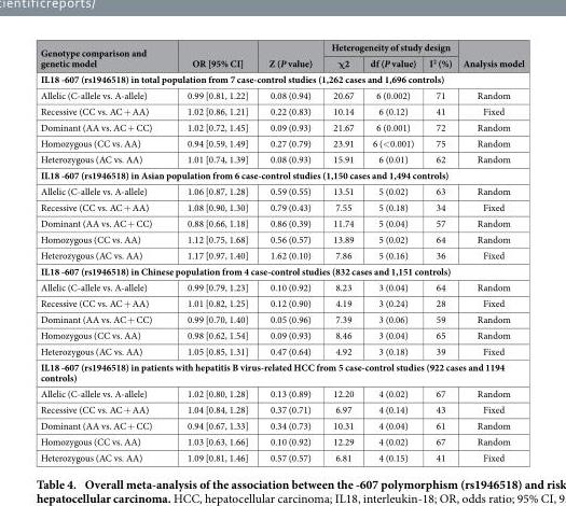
<table><thead><tr><td rowspan="2">Genotype comparison and genetic model</td><td rowspan="2">OR [95% CI]</td><td rowspan="2">Z (P value)</td><td colspan="3">Heterogeneity of study design</td><td rowspan="2">Analysis model</td></tr><tr><td>χ2</td><td>df (P value)</td><td>I<sup>2</sup> (%)</td></tr></thead><tbody><tr><td colspan="7">IL18 -607 (rs1946518) in total population from 7 case-control studies (1,262 cases and 1,696 controls)</td></tr><tr><td>Allelic (C-allele vs. A-allele)</td><td>0.99 [0.81, 1.22]</td><td>0.08 (0.94)</td><td>20.67</td><td>6 (0.002)</td><td>71</td><td>Random</td></tr><tr><td>Recessive (CC vs. AC + AA)</td><td>1.02 [0.86, 1.21]</td><td>0.22 (0.83)</td><td>10.14</td><td>6 (0.12)</td><td>41</td><td>Fixed</td></tr><tr><td>Dominant (AA vs. AC + CC)</td><td>1.02 [0.72, 1.45]</td><td>0.09 (0.93)</td><td>21.67</td><td>6 (0.001)</td><td>72</td><td>Random</td></tr><tr><td>Homozygous (CC vs. AA)</td><td>0.94 [0.59, 1.49]</td><td>0.27 (0.79)</td><td>23.91</td><td>6 (&lt; 0.001)</td><td>75</td><td>Random</td></tr><tr><td>Heterozygous (AC vs. AA)</td><td>1.01 [0.74, 1.39]</td><td>0.08 (0.93)</td><td>15.91</td><td>6 (0.01)</td><td>62</td><td>Random</td></tr><tr><td colspan="7">IL18 -607 (rs1946518) in Asian population from 6 case-control studies (1,150 cases and 1,494 controls)</td></tr><tr><td>Allelic (C-allele vs. A-allele)</td><td>1.06 [0.87, 1.28]</td><td>0.59 (0.55)</td><td>13.51</td><td>5 (0.02)</td><td>63</td><td>Random</td></tr><tr><td>Recessive (CC vs. AC + AA)</td><td>1.08 [0.90, 1.30]</td><td>0.79 (0.43)</td><td>7.55</td><td>5 (0.18)</td><td>34</td><td>Fixed</td></tr><tr><td>Dominant (AA vs. AC + CC)</td><td>0.88 [0.66, 1.18]</td><td>0.86 (0.39)</td><td>11.74</td><td>5 (0.04)</td><td>57</td><td>Random</td></tr><tr><td>Homozygous (CC vs. AA)</td><td>1.12 [0.75, 1.68]</td><td>0.56 (0.57)</td><td>13.89</td><td>5 (0.02)</td><td>64</td><td>Random</td></tr><tr><td>Heterozygous (AC vs. AA)</td><td>1.17 [0.97, 1.40]</td><td>1.62 (0.10)</td><td>7.86</td><td>5 (0.16)</td><td>36</td><td>Fixed</td></tr><tr><td colspan="7">IL18 -607 (rs1946518) in Chinese population from 4 case-control studies (832 cases and 1,151 controls)</td></tr><tr><td>Allelic (C-allele vs. A-allele)</td><td>0.99 [0.79, 1.23]</td><td>0.10 (0.92)</td><td>8.23</td><td>3 (0.04)</td><td>64</td><td>Random</td></tr><tr><td>Recessive (CC vs. AC + AA)</td><td>1.01 [0.82, 1.25]</td><td>0.12 (0.90)</td><td>4.19</td><td>3 (0.24)</td><td>28</td><td>Fixed</td></tr><tr><td>Dominant (AA vs. AC + CC)</td><td>0.99 [0.70, 1.40]</td><td>0.05 (0.96)</td><td>7.39</td><td>3 (0.06)</td><td>59</td><td>Random</td></tr><tr><td>Homozygous (CC vs. AA)</td><td>0.98 [0.62, 1.54]</td><td>0.09 (0.93)</td><td>8.46</td><td>3 (0.04)</td><td>65</td><td>Random</td></tr><tr><td>Heterozygous (AC vs. AA)</td><td>1.05 [0.85, 1.31]</td><td>0.47 (0.64)</td><td>4.92</td><td>3 (0.18)</td><td>39</td><td>Fixed</td></tr><tr><td colspan="7">IL18 -607 (rs1946518) in patients with hepatitis B virus-related HCC from 5 case-control studies (922 cases and 1194 controls)</td></tr><tr><td>Allelic (C-allele vs. A-allele)</td><td>1.02 [0.80, 1.28]</td><td>0.13 (0.89)</td><td>12.20</td><td>4 (0.02)</td><td>67</td><td>Random</td></tr><tr><td>Recessive (CC vs. AC + AA)</td><td>1.04 [0.84, 1.28]</td><td>0.37 (0.71)</td><td>6.97</td><td>4 (0.14)</td><td>43</td><td>Fixed</td></tr><tr><td>Dominant (AA vs. AC + CC)</td><td>0.94 [0.67, 1.33]</td><td>0.34 (0.73)</td><td>10.31</td><td>4 (0.04)</td><td>61</td><td>Random</td></tr><tr><td>Homozygous (CC vs. AA)</td><td>1.03 [0.63, 1.66]</td><td>0.10 (0.92)</td><td>12.29</td><td>4 (0.02)</td><td>67</td><td>Random</td></tr><tr><td>Heterozygous (AC vs. AA)</td><td>1.09 [0.81, 1.46]</td><td>0.57 (0.57)</td><td>6.81</td><td>4 (0.15)</td><td>41</td><td>Fixed</td></tr></tbody></table>